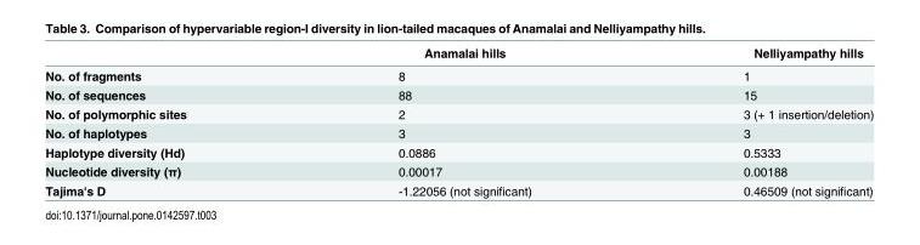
<table><thead><tr><td></td><td>Anamalai hills</td><td>Nelliyampathy hills</td></tr></thead><tbody><tr><td>No. of fragments</td><td>8</td><td>1</td></tr><tr><td>No. of sequences</td><td>88</td><td>15</td></tr><tr><td>No. of polymorphic sites</td><td>2</td><td>3 (+ 1 insertion/deletion)</td></tr><tr><td>No. of haplotypes</td><td>3</td><td>3</td></tr><tr><td>Haplotype diversity (Hd)</td><td>0.0886</td><td>0.5333</td></tr><tr><td>Nucleotide diversity (π)</td><td>0.00017</td><td>0.00188</td></tr><tr><td>Tajima&#x27;s D</td><td>-1.22056 (not significant)</td><td>0.46509 (not significant)</td></tr></tbody></table>